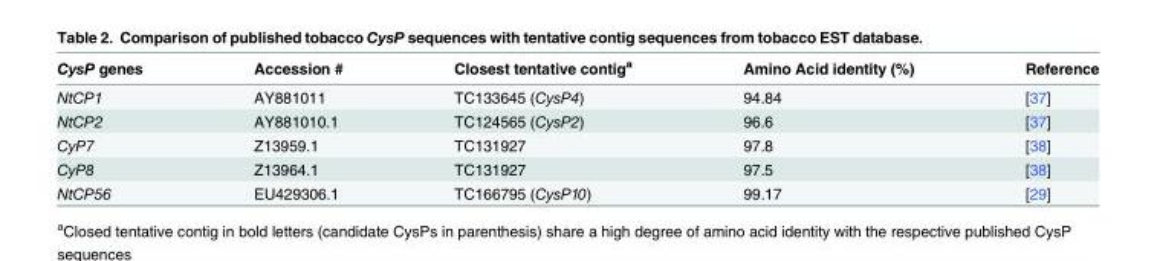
<table><thead><tr><td>CysP genes</td><td>Accession #</td><td>Closest tentative contig<sup>a</sup></td><td>Amino Acid identity (%)</td><td>Reference</td></tr></thead><tbody><tr><td>NtCP1</td><td>AY881011</td><td>TC133645 (CysP4)</td><td>94.84</td><td>[37]</td></tr><tr><td>NtCP2</td><td>AY881010.1</td><td>TC124565 (CysP2)</td><td>96.6</td><td>[37]</td></tr><tr><td>CyP7</td><td>Z13959.1</td><td>TC131927</td><td>97.8</td><td>[38]</td></tr><tr><td>CyP8</td><td>Z13964.1</td><td>TC131927</td><td>97.5</td><td>[38]</td></tr><tr><td>NtCP56</td><td>EU429306.1</td><td>TC166795 (CysP10)</td><td>99.17</td><td>[29]</td></tr></tbody></table>